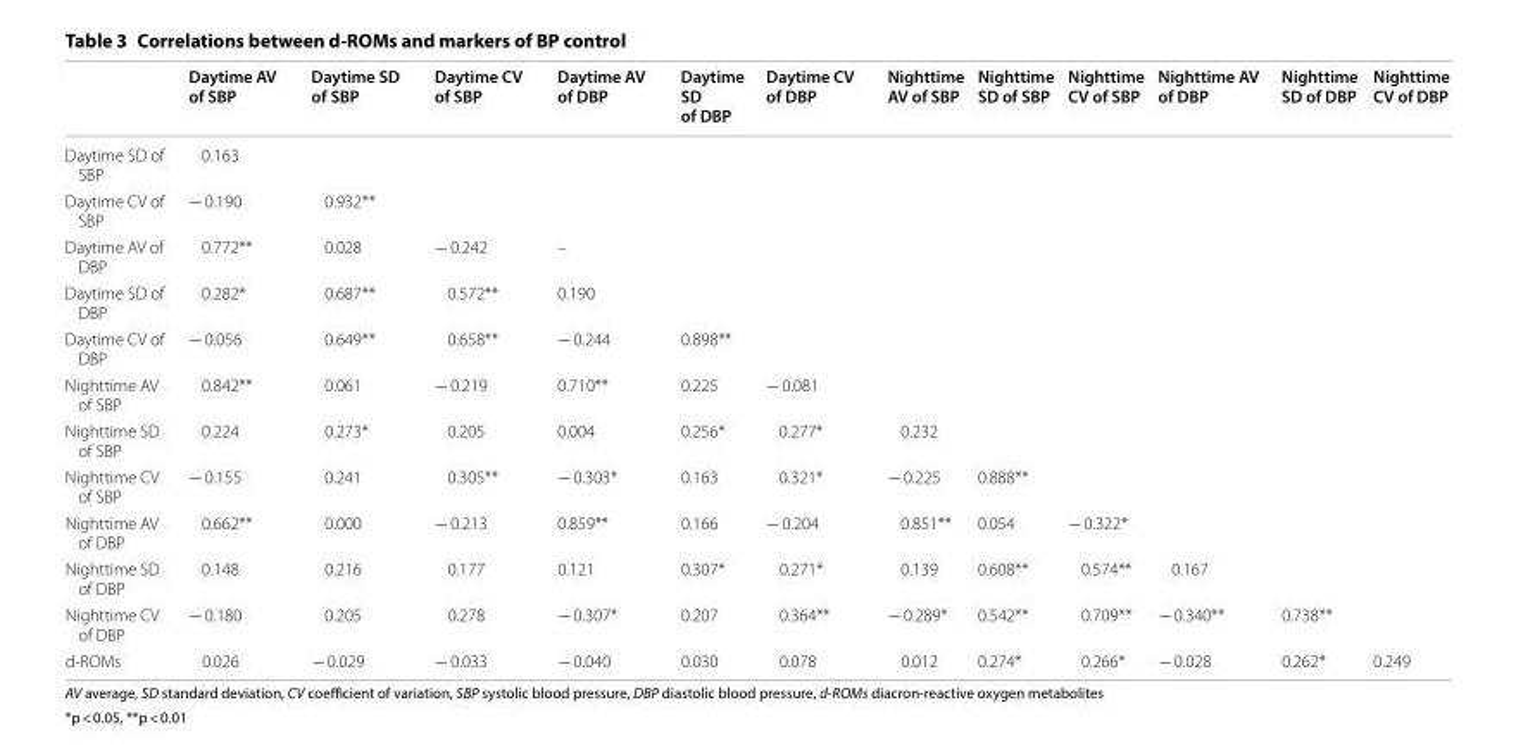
<table><thead><tr><td></td><td>Daytime AV of SBP</td><td>Daytime SD of SBP</td><td>Daytime CV of SBP</td><td>Daytime AV of DBP</td><td>Daytime SD of DBP</td><td>Daytime CV of DBP</td><td>Nighttime AV of SBP</td><td>Nighttime SD of SBP</td><td>Nighttime CV of SBP</td><td>Nighttime AV of DBP</td><td>Nighttime SD of DBP</td><td>Nighttime CV of DBP</td></tr></thead><tbody><tr><td>Daytime SD of SBP</td><td>0.163</td><td></td><td></td><td></td><td></td><td></td><td></td><td></td><td></td><td></td><td></td><td></td></tr><tr><td>Daytime CV of SBP</td><td>− 0.190</td><td>0.932**</td><td></td><td></td><td></td><td></td><td></td><td></td><td></td><td></td><td></td><td></td></tr><tr><td>Daytime AV of DBP</td><td>0.772**</td><td>0.028</td><td>− 0.242</td><td>–</td><td></td><td></td><td></td><td></td><td></td><td></td><td></td><td></td></tr><tr><td>Daytime SD of DBP</td><td>0.282*</td><td>0.687**</td><td>0.572**</td><td>0.190</td><td></td><td></td><td></td><td></td><td></td><td></td><td></td><td></td></tr><tr><td>Daytime CV of DBP</td><td>− 0.056</td><td>0.649**</td><td>0.658**</td><td>− 0.244</td><td>0.898**</td><td></td><td></td><td></td><td></td><td></td><td></td><td></td></tr><tr><td>Nighttime AV of SBP</td><td>0.842**</td><td>0.061</td><td>− 0.219</td><td>0.710**</td><td>0.225</td><td>− 0.081</td><td></td><td></td><td></td><td></td><td></td><td></td></tr><tr><td>Nighttime SD of SBP</td><td>0.224</td><td>0.273*</td><td>0.205</td><td>0.004</td><td>0.256*</td><td>0.277*</td><td>0.232</td><td></td><td></td><td></td><td></td><td></td></tr><tr><td>Nighttime CV of SBP</td><td>− 0.155</td><td>0.241</td><td>0.305**</td><td>− 0.303*</td><td>0.163</td><td>0.321*</td><td>− 0.225</td><td>0.888**</td><td></td><td></td><td></td><td></td></tr><tr><td>Nighttime AV of DBP</td><td>0.662**</td><td>0.000</td><td>− 0.213</td><td>0.859**</td><td>0.166</td><td>− 0.204</td><td>0.851**</td><td>0.054</td><td>− 0.322*</td><td></td><td></td><td></td></tr><tr><td>Nighttime SD of DBP</td><td>0.148</td><td>0.216</td><td>0.177</td><td>0.121</td><td>0.307*</td><td>0.271*</td><td>0.139</td><td>0.608**</td><td>0.574**</td><td>0.167</td><td></td><td></td></tr><tr><td>Nighttime CV of DBP</td><td>− 0.180</td><td>0.205</td><td>0.278</td><td>− 0.307*</td><td>0.207</td><td>0.364**</td><td>− 0.289*</td><td>0.542**</td><td>0.709**</td><td>− 0.340**</td><td>0.738**</td><td></td></tr><tr><td>d-ROMs</td><td>0.026</td><td>− 0.029</td><td>− 0.033</td><td>− 0.040</td><td>0.030</td><td>0.078</td><td>0.012</td><td>0.274*</td><td>0.266*</td><td>− 0.028</td><td>0.262*</td><td>0.249</td></tr></tbody></table>